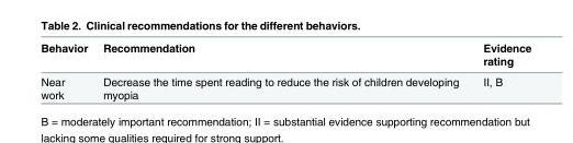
<table><thead><tr><td>Behavior</td><td>Recommendation</td><td>Evidence rating</td></tr></thead><tbody><tr><td>Near work</td><td>Decrease the time spent reading to reduce the risk of children developing myopia</td><td>II, B</td></tr></tbody></table>